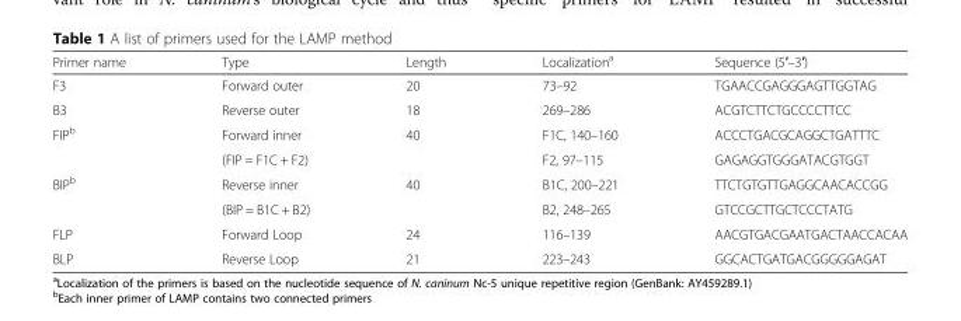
<table><thead><tr><td>Primer name</td><td>Type</td><td>Length</td><td>Localization<sup>a</sup></td><td>Sequence (5′–3′)</td></tr></thead><tbody><tr><td>F3</td><td>Forward outer</td><td>20</td><td>73–92</td><td>TGAACCGAGGGAGTTGGTAG</td></tr><tr><td>B3</td><td>Reverse outer</td><td>18</td><td>269–286</td><td>ACGTCTTCTGCCCCTTCC</td></tr><tr><td rowspan="2">FIP<sup>b</sup></td><td>Forward inner</td><td>40</td><td>F1C, 140–160</td><td>ACCCTGACGCAGGCTGATTTC</td></tr><tr><td>(FIP = F1C + F2)</td><td></td><td>F2, 97–115</td><td>GAGAGGTGGGATACGTGGT</td></tr><tr><td rowspan="2">BIP<sup>b</sup></td><td>Reverse inner</td><td>40</td><td>B1C, 200–221</td><td>TTCTGTGTTGAGGCAACACCGG</td></tr><tr><td>(BIP = B1C + B2)</td><td></td><td>B2, 248–265</td><td>GTCCGCTTGCTCCCTATG</td></tr><tr><td>FLP</td><td>Forward Loop</td><td>24</td><td>116–139</td><td>AACGTGACGAATGACTAACCACAA</td></tr><tr><td>BLP</td><td>Reverse Loop</td><td>21</td><td>223–243</td><td>GGCACTGATGACGGGGGAGAT</td></tr></tbody></table>